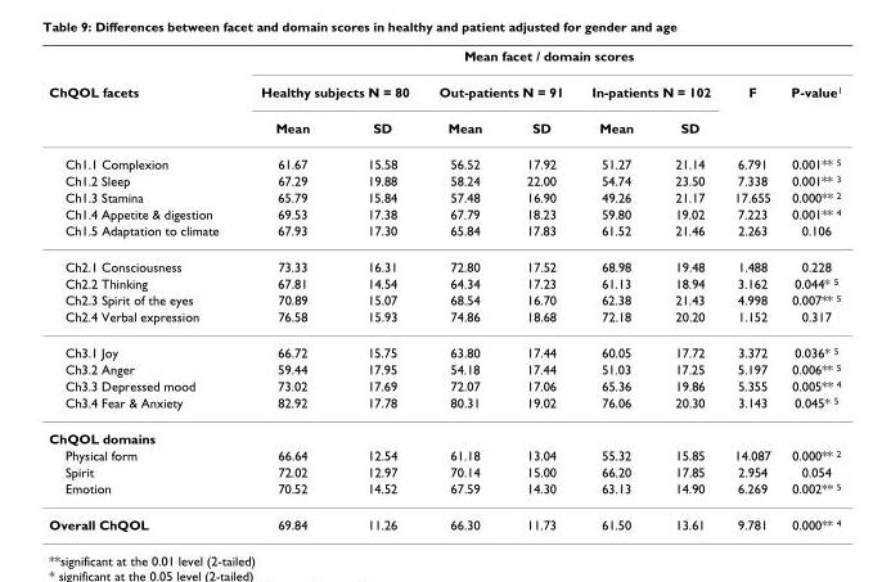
<table><thead><tr><td rowspan="3">ChQOL facets</td><td colspan="8">Mean facet / domain scores</td></tr><tr><td colspan="2">Healthy subjects N = 80</td><td colspan="2">Out-patients N = 91</td><td colspan="2">In-patients N = 102</td><td rowspan="2">F</td><td rowspan="2">P-value<sup>1</sup></td></tr><tr><td>Mean</td><td>SD</td><td>Mean</td><td>SD</td><td>Mean</td><td>SD</td></tr></thead><tbody><tr><td>Ch1.1 Complexion</td><td>61.67</td><td>15.58</td><td>56.52</td><td>17.92</td><td>51.27</td><td>21.14</td><td>6.791</td><td>0.001** <sup>5</sup></td></tr><tr><td>Ch1.2 Sleep</td><td>67.29</td><td>19.88</td><td>58.24</td><td>22.00</td><td>54.74</td><td>23.50</td><td>7.338</td><td>0.001** <sup>3</sup></td></tr><tr><td>Ch1.3 Stamina</td><td>65.79</td><td>15.84</td><td>57.48</td><td>16.90</td><td>49.26</td><td>21.17</td><td>17.655</td><td>0.000** <sup>2</sup></td></tr><tr><td>Ch1.4 Appetite &amp; digestion</td><td>69.53</td><td>17.38</td><td>67.79</td><td>18.23</td><td>59.80</td><td>19.02</td><td>7.223</td><td>0.001** <sup>4</sup></td></tr><tr><td>Ch1.5 Adaptation to climate</td><td>67.93</td><td>17.30</td><td>65.84</td><td>17.83</td><td>61.52</td><td>21.46</td><td>2.263</td><td>0.106</td></tr><tr><td>Ch2.1 Consciousness</td><td>73.33</td><td>16.31</td><td>72.80</td><td>17.52</td><td>68.98</td><td>19.48</td><td>1.488</td><td>0.228</td></tr><tr><td>Ch2.2 Thinking</td><td>67.81</td><td>14.54</td><td>64.34</td><td>17.23</td><td>61.13</td><td>18.94</td><td>3.162</td><td>0.044* <sup>5</sup></td></tr><tr><td>Ch2.3 Spirit of the eyes</td><td>70.89</td><td>15.07</td><td>68.54</td><td>16.70</td><td>62.38</td><td>21.43</td><td>4.998</td><td>0.007** <sup>5</sup></td></tr><tr><td>Ch2.4 Verbal expression</td><td>76.58</td><td>15.93</td><td>74.86</td><td>18.68</td><td>72.18</td><td>20.20</td><td>1.152</td><td>0.317</td></tr><tr><td>Ch3.1 Joy</td><td>66.72</td><td>15.75</td><td>63.80</td><td>17.44</td><td>60.05</td><td>17.72</td><td>3.372</td><td>0.036* <sup>5</sup></td></tr><tr><td>Ch3.2 Anger</td><td>59.44</td><td>17.95</td><td>54.18</td><td>17.44</td><td>51.03</td><td>17.25</td><td>5.197</td><td>0.006** <sup>5</sup></td></tr><tr><td>Ch3.3 Depressed mood</td><td>73.02</td><td>17.69</td><td>72.07</td><td>17.06</td><td>65.36</td><td>19.86</td><td>5.355</td><td>0.005** <sup>4</sup></td></tr><tr><td>Ch3.4 Fear &amp; Anxiety</td><td>82.92</td><td>17.78</td><td>80.31</td><td>19.02</td><td>76.06</td><td>20.30</td><td>3.143</td><td>0.045* <sup>5</sup></td></tr><tr><td colspan="9">ChQOL domains</td></tr><tr><td>Physical form</td><td>66.64</td><td>12.54</td><td>61.18</td><td>13.04</td><td>55.32</td><td>15.85</td><td>14.087</td><td>0.000** <sup>2</sup></td></tr><tr><td>Spirit</td><td>72.02</td><td>12.97</td><td>70.14</td><td>15.00</td><td>66.20</td><td>17.85</td><td>2.954</td><td>0.054</td></tr><tr><td>Emotion</td><td>70.52</td><td>14.52</td><td>67.59</td><td>14.30</td><td>63.13</td><td>14.90</td><td>6.269</td><td>0.002** <sup>5</sup></td></tr><tr><td>Overall ChQOL</td><td>69.84</td><td>11.26</td><td>66.30</td><td>11.73</td><td>61.50</td><td>13.61</td><td>9.781</td><td>0.000** <sup>4</sup></td></tr></tbody></table>